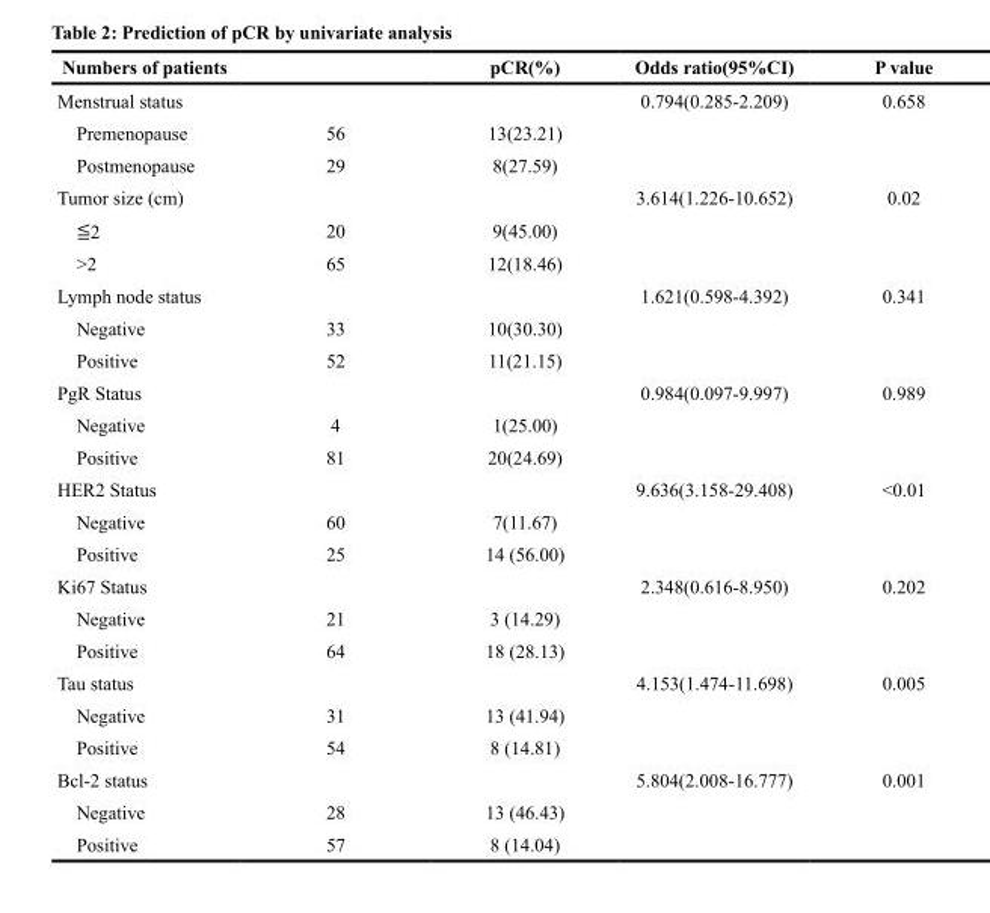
<table><thead><tr><td>Numbers of patients</td><td></td><td>pCR(%)</td><td>Odds ratio(95%CI)</td><td>P value</td></tr></thead><tbody><tr><td>Menstrual status</td><td></td><td></td><td>0.794(0.285-2.209)</td><td>0.658</td></tr><tr><td>Premenopause</td><td>56</td><td>13(23.21)</td><td></td><td></td></tr><tr><td>Postmenopause</td><td>29</td><td>8(27.59)</td><td></td><td></td></tr><tr><td>Tumor size (cm)</td><td></td><td></td><td>3.614(1.226-10.652)</td><td>0.02</td></tr><tr><td>≦2</td><td>20</td><td>9(45.00)</td><td></td><td></td></tr><tr><td>&gt;2</td><td>65</td><td>12(18.46)</td><td></td><td></td></tr><tr><td>Lymph node status</td><td></td><td></td><td>1.621(0.598-4.392)</td><td>0.341</td></tr><tr><td>Negative</td><td>33</td><td>10(30.30)</td><td></td><td></td></tr><tr><td>Positive</td><td>52</td><td>11(21.15)</td><td></td><td></td></tr><tr><td>PgR Status</td><td></td><td></td><td>0.984(0.097-9.997)</td><td>0.989</td></tr><tr><td>Negative</td><td>4</td><td>1(25.00)</td><td></td><td></td></tr><tr><td>Positive</td><td>81</td><td>20(24.69)</td><td></td><td></td></tr><tr><td>HER2 Status</td><td></td><td></td><td>9.636(3.158-29.408)</td><td>&lt;0.01</td></tr><tr><td>Negative</td><td>60</td><td>7(11.67)</td><td></td><td></td></tr><tr><td>Positive</td><td>25</td><td>14 (56.00)</td><td></td><td></td></tr><tr><td>Ki67 Status</td><td></td><td></td><td>2.348(0.616-8.950)</td><td>0.202</td></tr><tr><td>Negative</td><td>21</td><td>3 (14.29)</td><td></td><td></td></tr><tr><td>Positive</td><td>64</td><td>18 (28.13)</td><td></td><td></td></tr><tr><td>Tau status</td><td></td><td></td><td>4.153(1.474-11.698)</td><td>0.005</td></tr><tr><td>Negative</td><td>31</td><td>13 (41.94)</td><td></td><td></td></tr><tr><td>Positive</td><td>54</td><td>8 (14.81)</td><td></td><td></td></tr><tr><td>Bcl-2 status</td><td></td><td></td><td>5.804(2.008-16.777)</td><td>0.001</td></tr><tr><td>Negative</td><td>28</td><td>13 (46.43)</td><td></td><td></td></tr><tr><td>Positive</td><td>57</td><td>8 (14.04)</td><td></td><td></td></tr></tbody></table>